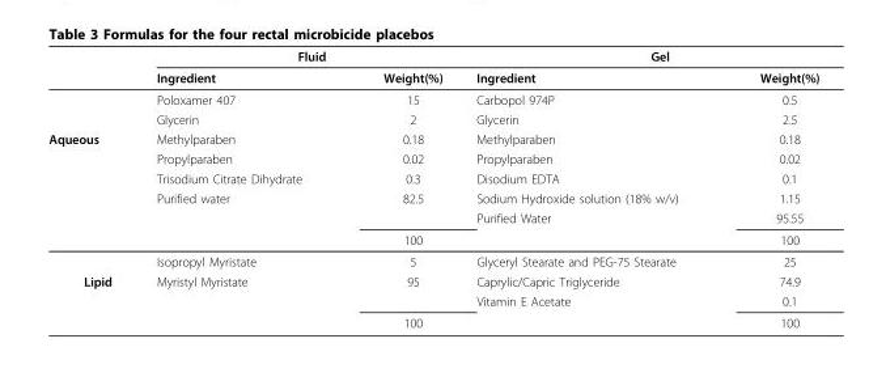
<table><thead><tr><td rowspan="2"></td><td colspan="2">Fluid</td><td colspan="2">Gel</td></tr><tr><td>Ingredient</td><td>Weight(%)</td><td>Ingredient</td><td>Weight(%)</td></tr></thead><tbody><tr><td></td><td>Poloxamer 407</td><td>15</td><td>Carbopol 974P</td><td>0.5</td></tr><tr><td></td><td>Glycerin</td><td>2</td><td>Glycerin</td><td>2.5</td></tr><tr><td rowspan="7">Aqueous</td><td>Methylparaben</td><td>0.18</td><td>Methylparaben</td><td>0.18</td></tr><tr><td>Propylparaben</td><td>0.02</td><td>Propylparaben</td><td>0.02</td></tr><tr><td>Trisodium Citrate Dihydrate</td><td>0.3</td><td>Disodium EDTA</td><td>0.1</td></tr><tr><td>Purified water</td><td>82.5</td><td>Sodium Hydroxide solution (18% w/v)</td><td>1.15</td></tr><tr><td></td><td></td><td>Purified Water</td><td>95.55</td></tr><tr><td></td><td>100</td><td></td><td>100</td></tr><tr><td>Isopropyl Myristate</td><td>5</td><td>Glyceryl Stearate and PEG-75 Stearate</td><td>25</td></tr><tr><td rowspan="3">Lipid</td><td>Myristyl Myristate</td><td>95</td><td>Caprylic/Capric Triglyceride</td><td>74.9</td></tr><tr><td></td><td></td><td>Vitamin E Acetate</td><td>0.1</td></tr><tr><td></td><td>100</td><td></td><td>100</td></tr></tbody></table>